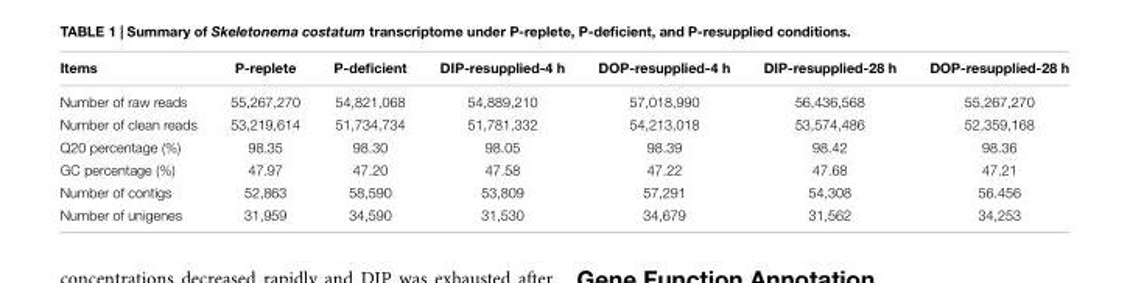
<table><thead><tr><td>Items</td><td>P-replete</td><td>P-deficient</td><td>DIP-resupplied-4 h</td><td>DOP-resupplied-4 h</td><td>DIP-resupplied-28 h</td><td>DOP-resupplied-28 h</td></tr></thead><tbody><tr><td>Number of raw reads</td><td>55,267,270</td><td>54,821,068</td><td>54,889,210</td><td>57,018,990</td><td>56,436,568</td><td>55,267,270</td></tr><tr><td>Number of clean reads</td><td>53,219,614</td><td>51,734,734</td><td>51,781,332</td><td>54,213,018</td><td>53,574,486</td><td>52,359,168</td></tr><tr><td>Q20 percentage (%)</td><td>98.35</td><td>98.30</td><td>98.05</td><td>98.39</td><td>98.42</td><td>98.36</td></tr><tr><td>GC percentage (%)</td><td>47.97</td><td>47.20</td><td>47.58</td><td>47.22</td><td>47.68</td><td>47.21</td></tr><tr><td>Number of contigs</td><td>52,863</td><td>58,590</td><td>53,809</td><td>57,291</td><td>54,308</td><td>56.456</td></tr><tr><td>Number of unigenes</td><td>31,959</td><td>34,590</td><td>31,530</td><td>34,679</td><td>31,562</td><td>34,253</td></tr></tbody></table>